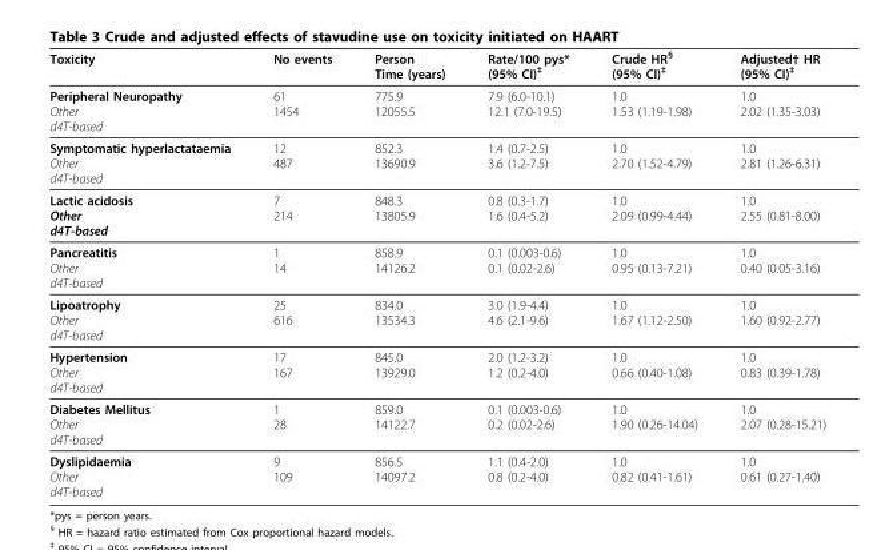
<table><thead><tr><td>Toxicity</td><td>No events</td><td>Person Time (years)</td><td>Rate/100 pys* (95% CI)<sup>‡</sup></td><td>Crude HR<sup>§</sup> (95% CI)<sup>‡</sup></td><td>Adjusted† HR (95% CI)<sup>‡</sup></td></tr></thead><tbody><tr><td>Peripheral Neuropathy Other d4T-based</td><td>61 1454</td><td>775.9 12055.5</td><td>7.9 (6.0-10.1) 12.1 (7.0-19.5)</td><td>1.0 1.53 (1.19-1.98)</td><td>1.0 2.02 (1.35-3.03)</td></tr><tr><td>Symptomatic hyperlactataemia Other d4T-based</td><td>12 487</td><td>852.3 13690.9</td><td>1.4 (0.7-2.5) 3.6 (1.2-7.5)</td><td>1.0 2.70 (1.52-4.79)</td><td>1.0 2.81 (1.26-6.31)</td></tr><tr><td>Lactic acidosis Other d4T-based</td><td>7 214</td><td>848.3 13805.9</td><td>0.8 (0.3-1.7) 1.6 (0.4-5.2)</td><td>1.0 2.09 (0.99-4.44)</td><td>1.0 2.55 (0.81-8.00)</td></tr><tr><td>Pancreatitis Other d4T-based</td><td>1 14</td><td>858.9 14126.2</td><td>0.1 (0.003-0.6) 0.1 (0.02-2.6)</td><td>1.0 0.95 (0.13-7.21)</td><td>1.0 0.40 (0.05-3.16)</td></tr><tr><td>Lipoatrophy Other d4T-based</td><td>25 616</td><td>834.0 13534.3</td><td>3.0 (1.9-4.4) 4.6 (2.1-9.6)</td><td>1.0 1.67 (1.12-2.50)</td><td>1.0 1.60 (0.92-2.77)</td></tr><tr><td>Hypertension Other d4T-based</td><td>17 167</td><td>845.0 13929.0</td><td>2.0 (1.2-3.2) 1.2 (0.2-4.0)</td><td>1.0 0.66 (0.40-1.08)</td><td>1.0 0.83 (0.39-1.78)</td></tr><tr><td>Diabetes Mellitus Other d4T-based</td><td>1 28</td><td>859.0 14122.7</td><td>0.1 (0.003-0.6) 0.2 (0.02-2.6)</td><td>1.0 1.90 (0.26-14.04)</td><td>1.0 2.07 (0.28-15.21)</td></tr><tr><td>Dyslipidaemia Other d4T-based</td><td>9 109</td><td>856.5 14097.2</td><td>1.1 (0.4-2.0) 0.8 (0.2-4.0)</td><td>1.0 0.82 (0.41-1.61)</td><td>1.0 0.61 (0.27-1.40)</td></tr></tbody></table>